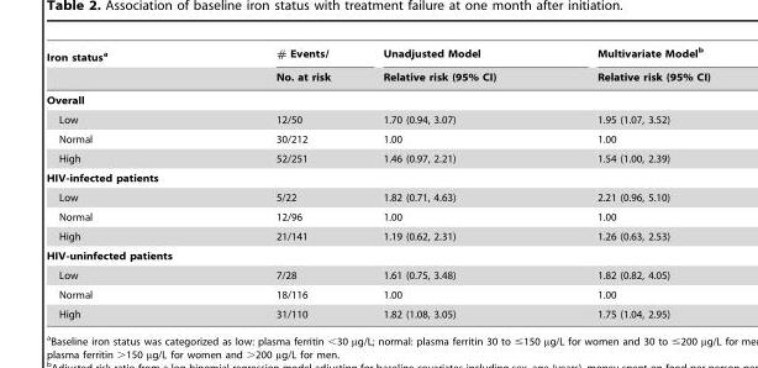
<table><thead><tr><td rowspan="2">Iron status<sup>a</sup></td><td rowspan="2"># Events/ No. at risk</td><td rowspan="2">Unadjusted Model Relative risk (95% CI)</td><td rowspan="2">Multivariate Model<sup>b</sup> Relative risk (95% CI)</td></tr><tr></tr></thead><tbody><tr><td colspan="4">Overall</td></tr><tr><td>Low</td><td>12/50</td><td>1.70 (0.94, 3.07)</td><td>1.95 (1.07, 3.52)</td></tr><tr><td>Normal</td><td>30/212</td><td>1.00</td><td>1.00</td></tr><tr><td>High</td><td>52/251</td><td>1.46 (0.97, 2.21)</td><td>1.54 (1.00, 2.39)</td></tr><tr><td colspan="4">HIV-infected patients</td></tr><tr><td>Low</td><td>5/22</td><td>1.82 (0.71, 4.63)</td><td>2.21 (0.96, 5.10)</td></tr><tr><td>Normal</td><td>12/96</td><td>1.00</td><td>1.00</td></tr><tr><td>High</td><td>21/141</td><td>1.19 (0.62, 2.31)</td><td>1.26 (0.63, 2.53)</td></tr><tr><td colspan="4">HIV-uninfected patients</td></tr><tr><td>Low</td><td>7/28</td><td>1.61 (0.75, 3.48)</td><td>1.82 (0.82, 4.05)</td></tr><tr><td>Normal</td><td>18/116</td><td>1.00</td><td>1.00</td></tr><tr><td>High</td><td>31/110</td><td>1.82 (1.08, 3.05)</td><td>1.75 (1.04, 2.95)</td></tr></tbody></table>